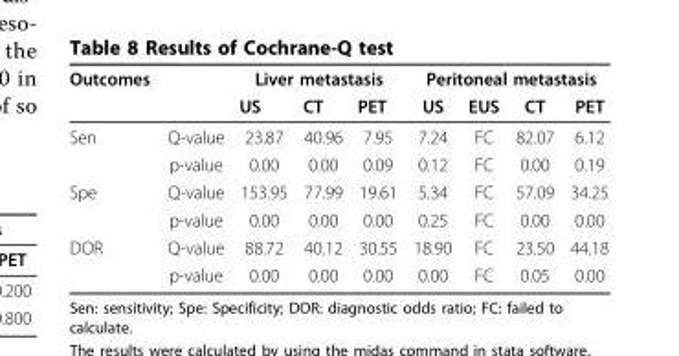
<table><thead><tr><td rowspan="2">Outcomes</td><td rowspan="2"></td><td colspan="3">Liver metastasis</td><td colspan="4">Peritoneal metastasis</td></tr><tr><td>US</td><td>CT</td><td>PET</td><td>US</td><td>EUS</td><td>CT</td><td>PET</td></tr></thead><tbody><tr><td rowspan="2">Sen</td><td>Q-value</td><td>23.87</td><td>40.96</td><td>7.95</td><td>7.24</td><td>FC</td><td>82.07</td><td>6.12</td></tr><tr><td>p-value</td><td>0.00</td><td>0.00</td><td>0.09</td><td>0.12</td><td>FC</td><td>0.00</td><td>0.19</td></tr><tr><td rowspan="2">Spe</td><td>Q-value</td><td>153.95</td><td>77.99</td><td>19.61</td><td>5.34</td><td>FC</td><td>57.09</td><td>34.25</td></tr><tr><td>p-value</td><td>0.00</td><td>0.00</td><td>0.00</td><td>0.25</td><td>FC</td><td>0.00</td><td>0.00</td></tr><tr><td rowspan="2">DOR</td><td>Q-value</td><td>88.72</td><td>40.12</td><td>30.55</td><td>18.90</td><td>FC</td><td>23.50</td><td>44.18</td></tr><tr><td>p-value</td><td>0.00</td><td>0.00</td><td>0.00</td><td>0.00</td><td>FC</td><td>0.05</td><td>0.00</td></tr></tbody></table>